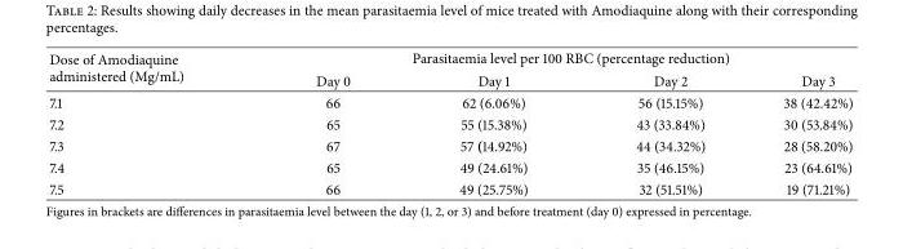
<table><thead><tr><td rowspan="2">Dose of Amodiaquine administered (Mg/mL)</td><td colspan="4">Parasitaemia level per 100 RBC (percentage reduction)</td></tr><tr><td>Day 0</td><td>Day 1</td><td>Day 2</td><td>Day 3</td></tr></thead><tbody><tr><td>7.1</td><td>66</td><td>62 (6.06%)</td><td>56 (15.15%)</td><td>38 (42.42%)</td></tr><tr><td>7.2</td><td>65</td><td>55 (15.38%)</td><td>43 (33.84%)</td><td>30 (53.84%)</td></tr><tr><td>7.3</td><td>67</td><td>57 (14.92%)</td><td>44 (34.32%)</td><td>28 (58.20%)</td></tr><tr><td>7.4</td><td>65</td><td>49 (24.61%)</td><td>35 (46.15%)</td><td>23 (64.61%)</td></tr><tr><td>7.5</td><td>66</td><td>49 (25.75%)</td><td>32 (51.51%)</td><td>19 (71.21%)</td></tr></tbody></table>